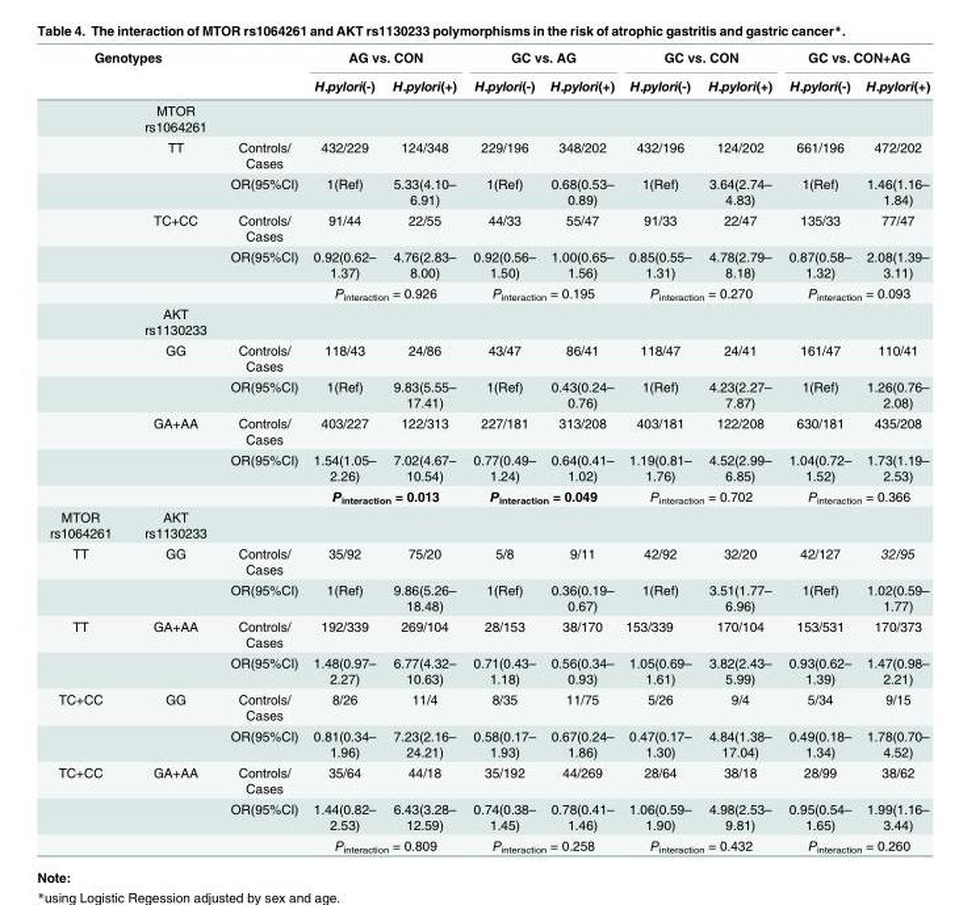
<table><thead><tr><td rowspan="2" colspan="2">Genotypes</td><td rowspan="3"></td><td colspan="2">AG vs. CON</td><td colspan="2">GC vs. AG</td><td colspan="2">GC vs. CON</td><td colspan="2">GC vs. CON+AG</td></tr><tr><td rowspan="2">H.pylori(-)</td><td rowspan="2">H.pylori(+)</td><td rowspan="2">H.pylori(-)</td><td rowspan="2">H.pylori(+)</td><td rowspan="2">H.pylori(-)</td><td rowspan="2">H.pylori(+)</td><td rowspan="2">H.pylori(-)</td><td rowspan="2">H.pylori(+)</td></tr><tr><td></td><td>MTOR rs1064261</td></tr></thead><tbody><tr><td></td><td>TT</td><td>Controls/ Cases</td><td>432/229</td><td>124/348</td><td>229/196</td><td>348/202</td><td>432/196</td><td>124/202</td><td>661/196</td><td>472/202</td></tr><tr><td></td><td></td><td>OR(95%CI)</td><td>1(Ref)</td><td>5.33(4.10– 6.91)</td><td>1(Ref)</td><td>0.68(0.53– 0.89)</td><td>1(Ref)</td><td>3.64(2.74– 4.83)</td><td>1(Ref)</td><td>1.46(1.16– 1.84)</td></tr><tr><td></td><td>TC+CC</td><td>Controls/ Cases</td><td>91/44</td><td>22/55</td><td>44/33</td><td>55/47</td><td>91/33</td><td>22/47</td><td>135/33</td><td>77/47</td></tr><tr><td></td><td></td><td>OR(95%CI)</td><td>0.92(0.62– 1.37)</td><td>4.76(2.83– 8.00)</td><td>0.92(0.56– 1.50)</td><td>1.00(0.65– 1.56)</td><td>0.85(0.55– 1.31)</td><td>4.78(2.79– 8.18)</td><td>0.87(0.58– 1.32)</td><td>2.08(1.39– 3.11)</td></tr><tr><td></td><td></td><td></td><td colspan="2">P<sub>interaction</sub> = 0.926</td><td colspan="2">P<sub>interaction</sub> = 0.195</td><td colspan="2">P<sub>interaction</sub> = 0.270</td><td colspan="2">P<sub>interaction</sub> = 0.093</td></tr><tr><td></td><td>AKT rs1130233</td><td></td><td></td><td></td><td></td><td></td><td></td><td></td><td></td><td></td></tr><tr><td></td><td>GG</td><td>Controls/ Cases</td><td>118/43</td><td>24/86</td><td>43/47</td><td>86/41</td><td>118/47</td><td>24/41</td><td>161/47</td><td>110/41</td></tr><tr><td></td><td></td><td>OR(95%CI)</td><td>1(Ref)</td><td>9.83(5.55– 17.41)</td><td>1(Ref)</td><td>0.43(0.24– 0.76)</td><td>1(Ref)</td><td>4.23(2.27– 7.87)</td><td>1(Ref)</td><td>1.26(0.76– 2.08)</td></tr><tr><td></td><td>GA+AA</td><td>Controls/ Cases</td><td>403/227</td><td>122/313</td><td>227/181</td><td>313/208</td><td>403/181</td><td>122/208</td><td>630/181</td><td>435/208</td></tr><tr><td></td><td></td><td>OR(95%CI)</td><td>1.54(1.05– 2.26)</td><td>7.02(4.67– 10.54)</td><td>0.77(0.49– 1.24)</td><td>0.64(0.41– 1.02)</td><td>1.19(0.81– 1.76)</td><td>4.52(2.99– 6.85)</td><td>1.04(0.72– 1.52)</td><td>1.73(1.19– 2.53)</td></tr><tr><td></td><td></td><td></td><td colspan="2">P<sub>interaction</sub> = 0.013</td><td colspan="2">P<sub>interaction</sub> = 0.049</td><td colspan="2">P<sub>interaction</sub> = 0.702</td><td colspan="2">P<sub>interaction</sub> = 0.366</td></tr><tr><td>MTOR rs1064261</td><td>AKT rs1130233</td><td></td><td></td><td></td><td></td><td></td><td></td><td></td><td></td><td></td></tr><tr><td rowspan="2">TT</td><td>GG</td><td>Controls/ Cases</td><td>35/92</td><td>75/20</td><td>5/8</td><td>9/11</td><td>42/92</td><td>32/20</td><td>42/127</td><td>32/95</td></tr><tr><td></td><td>OR(95%CI)</td><td>1(Ref)</td><td>9.86(5.26– 18.48)</td><td>1(Ref)</td><td>0.36(0.19– 0.67)</td><td>1(Ref)</td><td>3.51(1.77– 6.96)</td><td>1(Ref)</td><td>1.02(0.59– 1.77)</td></tr><tr><td rowspan="2">TT</td><td>GA+AA</td><td>Controls/ Cases</td><td>192/339</td><td>269/104</td><td>28/153</td><td>38/170</td><td>153/339</td><td>170/104</td><td>153/531</td><td>170/373</td></tr><tr><td></td><td>OR(95%CI)</td><td>1.48(0.97– 2.27)</td><td>6.77(4.32– 10.63)</td><td>0.71(0.43– 1.18)</td><td>0.56(0.34– 0.93)</td><td>1.05(0.69– 1.61)</td><td>3.82(2.43– 5.99)</td><td>0.93(0.62– 1.39)</td><td>1.47(0.98– 2.21)</td></tr><tr><td rowspan="2">TC+CC</td><td>GG</td><td>Controls/ Cases</td><td>8/26</td><td>11/4</td><td>8/35</td><td>11/75</td><td>5/26</td><td>9/4</td><td>5/34</td><td>9/15</td></tr><tr><td></td><td>OR(95%CI)</td><td>0.81(0.34– 1.96)</td><td>7.23(2.16– 24.21)</td><td>0.58(0.17– 1.93)</td><td>0.67(0.24– 1.86)</td><td>0.47(0.17– 1.30)</td><td>4.84(1.38– 17.04)</td><td>0.49(0.18– 1.34)</td><td>1.78(0.70– 4.52)</td></tr><tr><td rowspan="3">TC+CC</td><td>GA+AA</td><td>Controls/ Cases</td><td>35/64</td><td>44/18</td><td>35/192</td><td>44/269</td><td>28/64</td><td>38/18</td><td>28/99</td><td>38/62</td></tr><tr><td></td><td>OR(95%CI)</td><td>1.44(0.82– 2.53)</td><td>6.43(3.28– 12.59)</td><td>0.74(0.38– 1.45)</td><td>0.78(0.41– 1.46)</td><td>1.06(0.59– 1.90)</td><td>4.98(2.53– 9.81)</td><td>0.95(0.54– 1.65)</td><td>1.99(1.16– 3.44)</td></tr><tr><td></td><td></td><td colspan="2">P<sub>interaction</sub> = 0.809</td><td colspan="2">P<sub>interaction</sub> = 0.258</td><td colspan="2">P<sub>interaction</sub> = 0.432</td><td colspan="2">P<sub>interaction</sub> = 0.260</td></tr></tbody></table>